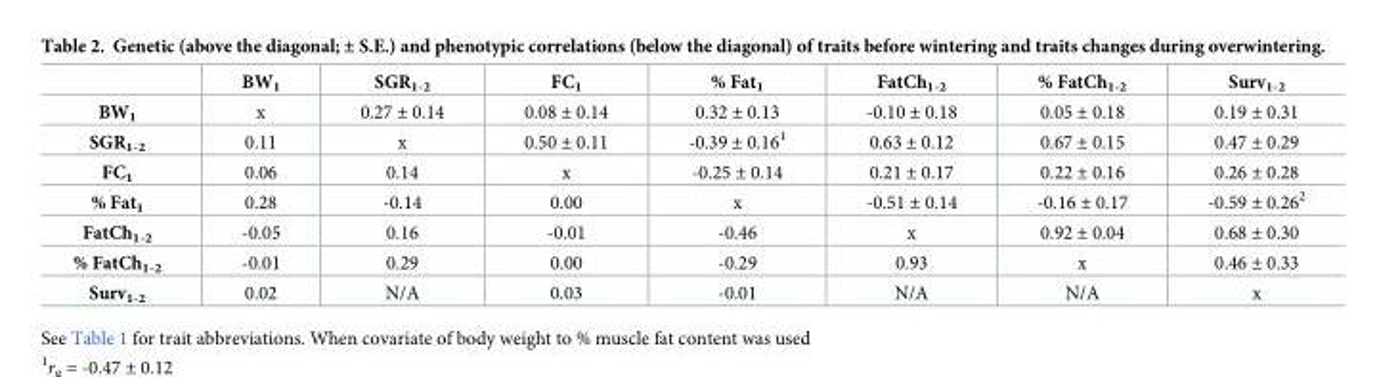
<table><thead><tr><td></td><td>BW<sub>1</sub></td><td>SGR<sub>1-2</sub></td><td>FC<sub>1</sub></td><td>% Fat<sub>1</sub></td><td>FatCh<sub>1-2</sub></td><td>% FatCh<sub>1-2</sub></td><td>Surv<sub>1-2</sub></td></tr></thead><tbody><tr><td>BW<sub>1</sub></td><td>x</td><td>0.27 ± 0.14</td><td>0.08 ± 0.14</td><td>0.32 ± 0.13</td><td>-0.10 ± 0.18</td><td>0.05 ± 0.18</td><td>0.19 ± 0.31</td></tr><tr><td>SGR<sub>1-2</sub></td><td>0.11</td><td>x</td><td>0.50 ± 0.11</td><td>-0.39 ± 0.16<sup>1</sup></td><td>0.63 ± 0.12</td><td>0.67 ± 0.15</td><td>0.47 ± 0.29</td></tr><tr><td>FC<sub>1</sub></td><td>0.06</td><td>0.14</td><td>x</td><td>-0.25 ± 0.14</td><td>0.21 ± 0.17</td><td>0.22 ± 0.16</td><td>0.26 ± 0.28</td></tr><tr><td>% Fat<sub>1</sub></td><td>0.28</td><td>-0.14</td><td>0.00</td><td>x</td><td>-0.51 ± 0.14</td><td>-0.16 ± 0.17</td><td>-0.59 ± 0.26<sup>2</sup></td></tr><tr><td>FatCh<sub>1-2</sub></td><td>-0.05</td><td>0.16</td><td>-0.01</td><td>-0.46</td><td>x</td><td>0.92 ± 0.04</td><td>0.68 ± 0.30</td></tr><tr><td>% FatCh<sub>1-2</sub></td><td>-0.01</td><td>0.29</td><td>0.00</td><td>-0.29</td><td>0.93</td><td>x</td><td>0.46 ± 0.33</td></tr><tr><td>Surv<sub>1-2</sub></td><td>0.02</td><td>N/A</td><td>0.03</td><td>-0.01</td><td>N/A</td><td>N/A</td><td>x</td></tr></tbody></table>